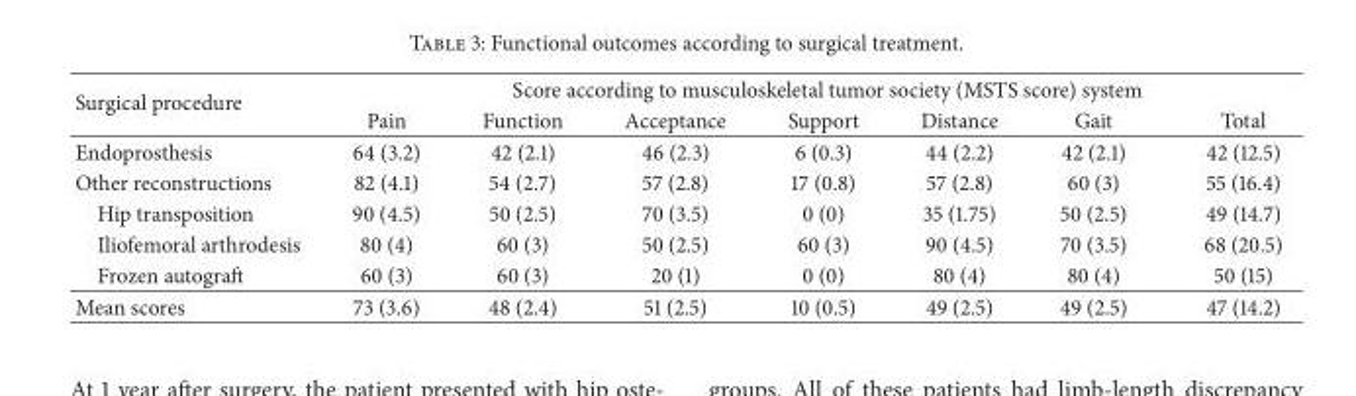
<table><thead><tr><td rowspan="2">Surgical procedure</td><td colspan="7">Score according to musculoskeletal tumor society (MSTS score) system</td></tr><tr><td>Pain</td><td>Function</td><td>Acceptance</td><td>Support</td><td>Distance</td><td>Gait</td><td>Total</td></tr></thead><tbody><tr><td>Endoprosthesis</td><td>64 (3.2)</td><td>42 (2.1)</td><td>46 (2.3)</td><td>6 (0.3)</td><td>44 (2.2)</td><td>42 (2.1)</td><td>42 (12.5)</td></tr><tr><td>Other reconstructions</td><td>82 (4.1)</td><td>54 (2.7)</td><td>57 (2.8)</td><td>17 (0.8)</td><td>57 (2.8)</td><td>60 (3)</td><td>55 (16.4)</td></tr><tr><td>Hip transposition</td><td>90 (4.5)</td><td>50 (2.5)</td><td>70 (3.5)</td><td>0 (0)</td><td>35 (1.75)</td><td>50 (2.5)</td><td>49 (14.7)</td></tr><tr><td>Iliofemoral arthrodesis</td><td>80 (4)</td><td>60 (3)</td><td>50 (2.5)</td><td>60 (3)</td><td>90 (4.5)</td><td>70 (3.5)</td><td>68 (20.5)</td></tr><tr><td>Frozen autograft</td><td>60 (3)</td><td>60 (3)</td><td>20 (1)</td><td>0 (0)</td><td>80 (4)</td><td>80 (4)</td><td>50 (15)</td></tr><tr><td>Mean scores</td><td>73 (3.6)</td><td>48 (2.4)</td><td>51 (2.5)</td><td>10 (0.5)</td><td>49 (2.5)</td><td>49 (2.5)</td><td>47 (14.2)</td></tr></tbody></table>